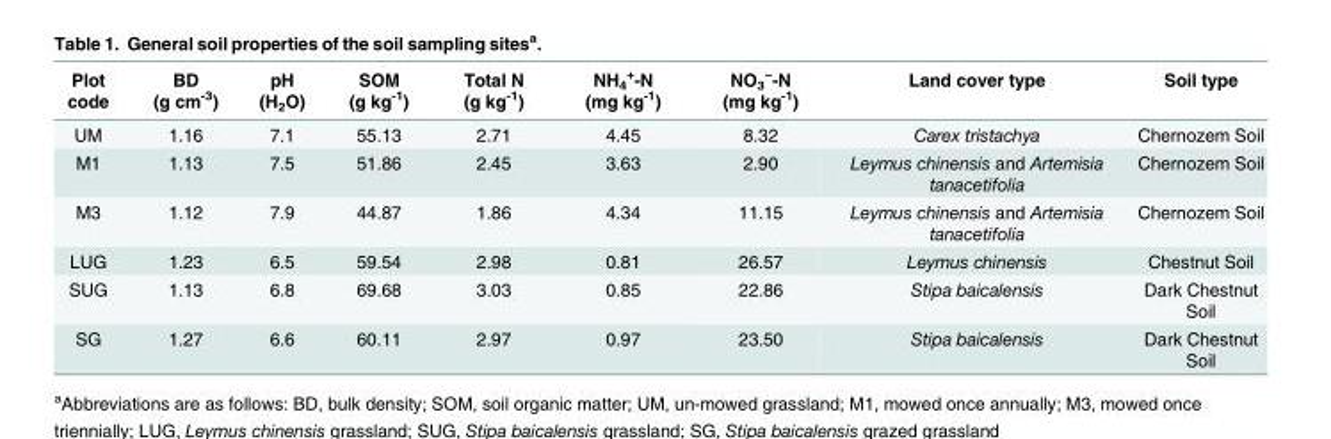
<table><thead><tr><td>Plot code</td><td>BD (g cm<sup>-3</sup>)</td><td>pH (H<sub>2</sub>O)</td><td>SOM (g kg<sup>-1</sup>)</td><td>Total N (g kg<sup>-1</sup>)</td><td>NH<sub>4</sub> <sup>+</sup>-N (mg kg<sup>-1</sup>)</td><td>NO<sub>3</sub> <sup>−</sup>-N (mg kg<sup>-1</sup>)</td><td>Land cover type</td><td>Soil type</td></tr></thead><tbody><tr><td>UM</td><td>1.16</td><td>7.1</td><td>55.13</td><td>2.71</td><td>4.45</td><td>8.32</td><td>Carex tristachya</td><td>Chernozem Soil</td></tr><tr><td>M1</td><td>1.13</td><td>7.5</td><td>51.86</td><td>2.45</td><td>3.63</td><td>2.90</td><td>Leymus chinensis and Artemisia tanacetifolia</td><td>Chernozem Soil</td></tr><tr><td>M3</td><td>1.12</td><td>7.9</td><td>44.87</td><td>1.86</td><td>4.34</td><td>11.15</td><td>Leymus chinensis and Artemisia tanacetifolia</td><td>Chernozem Soil</td></tr><tr><td>LUG</td><td>1.23</td><td>6.5</td><td>59.54</td><td>2.98</td><td>0.81</td><td>26.57</td><td>Leymus chinensis</td><td>Chestnut Soil</td></tr><tr><td>SUG</td><td>1.13</td><td>6.8</td><td>69.68</td><td>3.03</td><td>0.85</td><td>22.86</td><td>Stipa baicalensis</td><td>Dark Chestnut Soil</td></tr><tr><td>SG</td><td>1.27</td><td>6.6</td><td>60.11</td><td>2.97</td><td>0.97</td><td>23.50</td><td>Stipa baicalensis</td><td>Dark Chestnut Soil</td></tr></tbody></table>